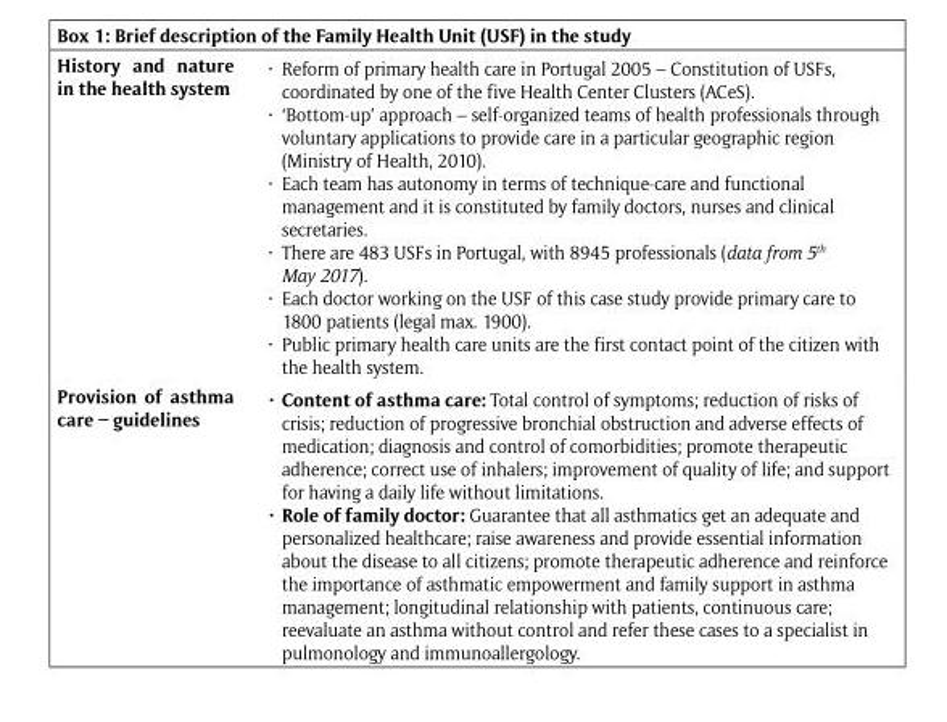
<table><tbody><tr><td>History and nature in the health system</td><td>• Reform of primary health care in Portugal 2005 – Constitution of USFs, coordinated by one of the five Health Center Clusters (ACeS). • ‘Bottom-up’ approach – self-organized teams of health professionals through voluntary applications to provide care in a particular geographic region ( Ministry of Health, 2010). • Each team has autonomy in terms of technique-care and functional management and it is constituted by family doctors, nurses and clinical secretaries. • There are 483 USFs in Portugal, with 8945 professionals (data from 5th May 2017). • Each doctor working on the USF of this case study provide primary care to 1800 patients (legal max. 1900). • Public primary health care units are the first contact point of the citizen with the health system.</td></tr><tr><td>Provision of asthma care – guidelines</td><td>• Content of asthma care: Total control of symptoms; reduction of risks of crisis; reduction of progressive bronchial obstruction and adverse effects of medication; diagnosis and control of comorbidities; promote therapeutic adherence; correct use of inhalers; improvement of quality of life; and support for having a daily life without limitations. • Role of family doctor: Guarantee that all asthmatics get an adequate and personalized healthcare; raise awareness and provide essential information about the disease to all citizens; promote therapeutic adherence and reinforce the importance of asthmatic empowerment and family support in asthma management; longitudinal relationship with patients, continuous care; reevaluate an asthma without control and refer these cases to a specialist in pulmonology and immunoallergology.</td></tr></tbody></table>